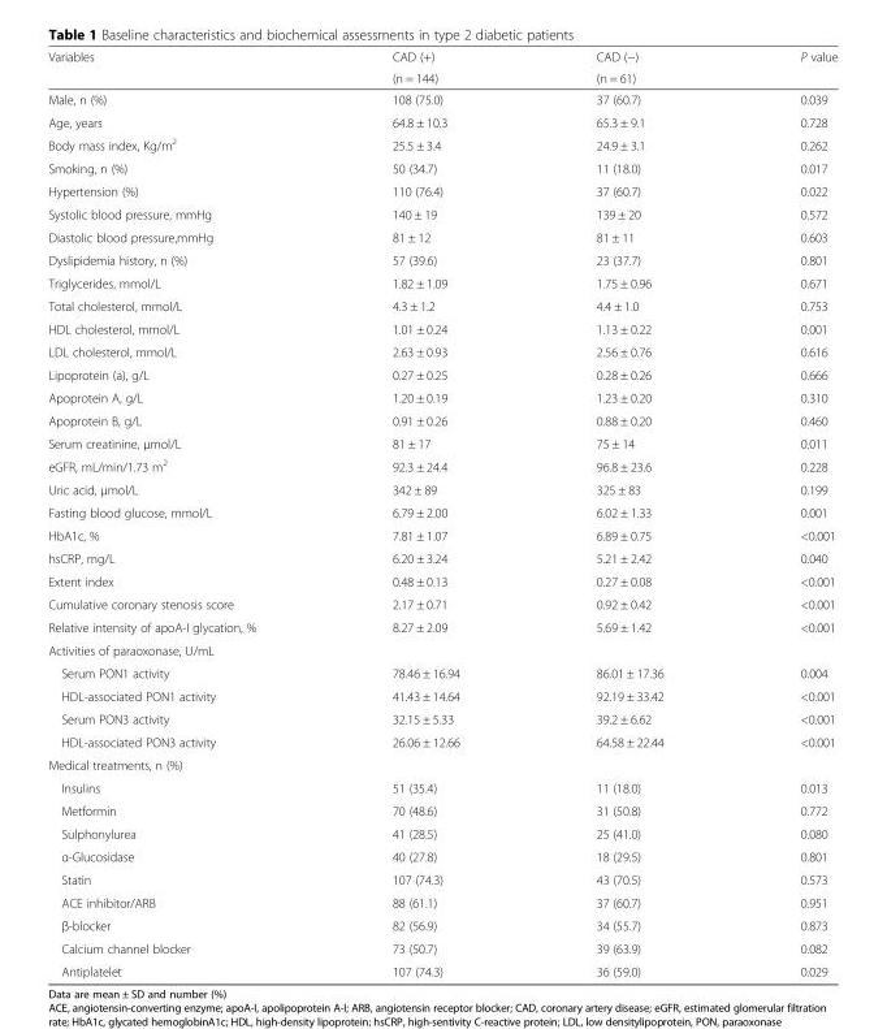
<table><thead><tr><td rowspan="2">Variables</td><td rowspan="2">CAD (+) (n = 144)</td><td rowspan="2">CAD (−) (n = 61)</td><td rowspan="2">P value</td></tr><tr></tr></thead><tbody><tr><td>Male, n (%)</td><td>108 (75.0)</td><td>37 (60.7)</td><td>0.039</td></tr><tr><td>Age, years</td><td>64.8 ± 10.3</td><td>65.3 ± 9.1</td><td>0.728</td></tr><tr><td>Body mass index, Kg/m<sup>2</sup></td><td>25.5 ± 3.4</td><td>24.9 ± 3.1</td><td>0.262</td></tr><tr><td>Smoking, n (%)</td><td>50 (34.7)</td><td>11 (18.0)</td><td>0.017</td></tr><tr><td>Hypertension (%)</td><td>110 (76.4)</td><td>37 (60.7)</td><td>0.022</td></tr><tr><td>Systolic blood pressure, mmHg</td><td>140 ± 19</td><td>139 ± 20</td><td>0.572</td></tr><tr><td>Diastolic blood pressure,mmHg</td><td>81 ± 12</td><td>81 ± 11</td><td>0.603</td></tr><tr><td>Dyslipidemia history, n (%)</td><td>57 (39.6)</td><td>23 (37.7)</td><td>0.801</td></tr><tr><td>Triglycerides, mmol/L</td><td>1.82 ± 1.09</td><td>1.75 ± 0.96</td><td>0.671</td></tr><tr><td>Total cholesterol, mmol/L</td><td>4.3 ± 1.2</td><td>4.4 ± 1.0</td><td>0.753</td></tr><tr><td>HDL cholesterol, mmol/L</td><td>1.01 ± 0.24</td><td>1.13 ± 0.22</td><td>0.001</td></tr><tr><td>LDL cholesterol, mmol/L</td><td>2.63 ± 0.93</td><td>2.56 ± 0.76</td><td>0.616</td></tr><tr><td>Lipoprotein (a), g/L</td><td>0.27 ± 0.25</td><td>0.28 ± 0.26</td><td>0.666</td></tr><tr><td>Apoprotein A, g/L</td><td>1.20 ± 0.19</td><td>1.23 ± 0.20</td><td>0.310</td></tr><tr><td>Apoprotein B, g/L</td><td>0.91 ± 0.26</td><td>0.88 ± 0.20</td><td>0.460</td></tr><tr><td>Serum creatinine, μmol/L</td><td>81 ± 17</td><td>75 ± 14</td><td>0.011</td></tr><tr><td>eGFR, mL/min/1.73 m<sup>2</sup></td><td>92.3 ± 24.4</td><td>96.8 ± 23.6</td><td>0.228</td></tr><tr><td>Uric acid, μmol/L</td><td>342 ± 89</td><td>325 ± 83</td><td>0.199</td></tr><tr><td>Fasting blood glucose, mmol/L</td><td>6.79 ± 2.00</td><td>6.02 ± 1.33</td><td>0.001</td></tr><tr><td>HbA1c, %</td><td>7.81 ± 1.07</td><td>6.89 ± 0.75</td><td>&lt;0.001</td></tr><tr><td>hsCRP, mg/L</td><td>6.20 ± 3.24</td><td>5.21 ± 2.42</td><td>0.040</td></tr><tr><td>Extent index</td><td>0.48 ± 0.13</td><td>0.27 ± 0.08</td><td>&lt;0.001</td></tr><tr><td>Cumulative coronary stenosis score</td><td>2.17 ± 0.71</td><td>0.92 ± 0.42</td><td>&lt;0.001</td></tr><tr><td>Relative intensity of apoA-I glycation, %</td><td>8.27 ± 2.09</td><td>5.69 ± 1.42</td><td>&lt;0.001</td></tr><tr><td colspan="4">Activities of paraoxonase, U/mL</td></tr><tr><td>Serum PON1 activity</td><td>78.46 ± 16.94</td><td>86.01 ± 17.36</td><td>0.004</td></tr><tr><td>HDL-associated PON1 activity</td><td>41.43 ± 14.64</td><td>92.19 ± 33.42</td><td>&lt;0.001</td></tr><tr><td>Serum PON3 activity</td><td>32.15 ± 5.33</td><td>39.2 ± 6.62</td><td>&lt;0.001</td></tr><tr><td>HDL-associated PON3 activity</td><td>26.06 ± 12.66</td><td>64.58 ± 22.44</td><td>&lt;0.001</td></tr><tr><td colspan="4">Medical treatments, n (%)</td></tr><tr><td>Insulins</td><td>51 (35.4)</td><td>11 (18.0)</td><td>0.013</td></tr><tr><td>Metformin</td><td>70 (48.6)</td><td>31 (50.8)</td><td>0.772</td></tr><tr><td>Sulphonylurea</td><td>41 (28.5)</td><td>25 (41.0)</td><td>0.080</td></tr><tr><td>α-Glucosidase</td><td>40 (27.8)</td><td>18 (29.5)</td><td>0.801</td></tr><tr><td>Statin</td><td>107 (74.3)</td><td>43 (70.5)</td><td>0.573</td></tr><tr><td>ACE inhibitor/ARB</td><td>88 (61.1)</td><td>37 (60.7)</td><td>0.951</td></tr><tr><td>β-blocker</td><td>82 (56.9)</td><td>34 (55.7)</td><td>0.873</td></tr><tr><td>Calcium channel blocker</td><td>73 (50.7)</td><td>39 (63.9)</td><td>0.082</td></tr><tr><td>Antiplatelet</td><td>107 (74.3)</td><td>36 (59.0)</td><td>0.029</td></tr></tbody></table>